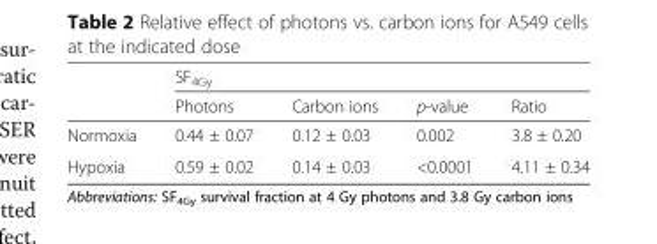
<table><thead><tr><td rowspan="2"></td><td colspan="4">SF<sub>4Gy</sub></td></tr><tr><td>Photons</td><td>Carbon ions</td><td>p-value</td><td>Ratio</td></tr></thead><tbody><tr><td>Normoxia</td><td>0.44 ± 0.07</td><td>0.12 ± 0.03</td><td>0.002</td><td>3.8 ± 0.20</td></tr><tr><td>Hypoxia</td><td>0.59 ± 0.02</td><td>0.14 ± 0.03</td><td>&lt;0.0001</td><td>4.11 ± 0.34</td></tr></tbody></table>